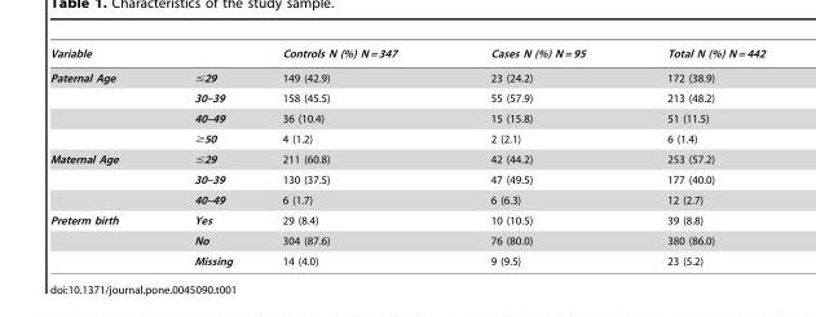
<table><thead><tr><td>Variable</td><td></td><td>Controls N (%) N = 347</td><td>Cases N (%) N = 95</td><td>Total N (%) N = 442</td></tr></thead><tbody><tr><td rowspan="4">Paternal Age</td><td>≤29</td><td>149 (42.9)</td><td>23 (24.2)</td><td>172 (38.9)</td></tr><tr><td>30–39</td><td>158 (45.5)</td><td>55 (57.9)</td><td>213 (48.2)</td></tr><tr><td>40–49</td><td>36 (10.4)</td><td>15 (15.8)</td><td>51 (11.5)</td></tr><tr><td>≥50</td><td>4 (1.2)</td><td>2 (2.1)</td><td>6 (1.4)</td></tr><tr><td rowspan="3">Maternal Age</td><td>≤29</td><td>211 (60.8)</td><td>42 (44.2)</td><td>253 (57.2)</td></tr><tr><td>30–39</td><td>130 (37.5)</td><td>47 (49.5)</td><td>177 (40.0)</td></tr><tr><td>40–49</td><td>6 (1.7)</td><td>6 (6.3)</td><td>12 (2.7)</td></tr><tr><td rowspan="3">Preterm birth</td><td>Yes</td><td>29 (8.4)</td><td>10 (10.5)</td><td>39 (8.8)</td></tr><tr><td>No</td><td>304 (87.6)</td><td>76 (80.0)</td><td>380 (86.0)</td></tr><tr><td>Missing</td><td>14 (4.0)</td><td>9 (9.5)</td><td>23 (5.2)</td></tr></tbody></table>